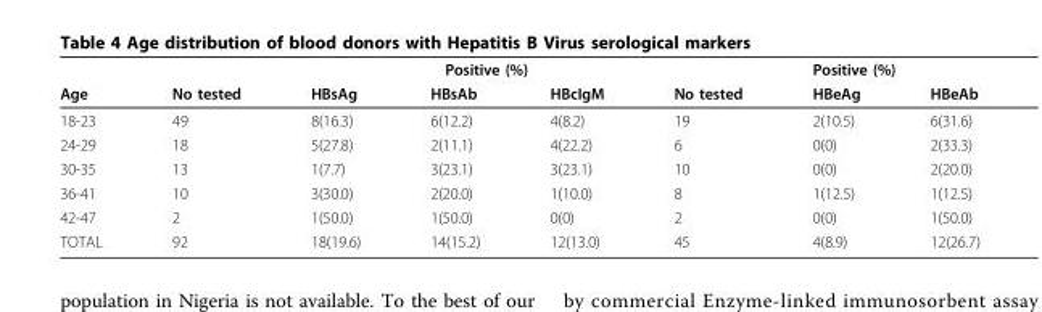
<table><thead><tr><td rowspan="2">Age</td><td rowspan="2">No tested</td><td colspan="3">Positive (%)</td><td rowspan="2">No tested</td><td colspan="2">Positive (%)</td></tr><tr><td>HBsAg</td><td>HBsAb</td><td>HBcIgM</td><td>HBeAg</td><td>HBeAb</td></tr></thead><tbody><tr><td>18-23</td><td>49</td><td>8(16.3)</td><td>6(12.2)</td><td>4(8.2)</td><td>19</td><td>2(10.5)</td><td>6(31.6)</td></tr><tr><td>24-29</td><td>18</td><td>5(27.8)</td><td>2(11.1)</td><td>4(22.2)</td><td>6</td><td>0(0)</td><td>2(33.3)</td></tr><tr><td>30-35</td><td>13</td><td>1(7.7)</td><td>3(23.1)</td><td>3(23.1)</td><td>10</td><td>0(0)</td><td>2(20.0)</td></tr><tr><td>36-41</td><td>10</td><td>3(30.0)</td><td>2(20.0)</td><td>1(10.0)</td><td>8</td><td>1(12.5)</td><td>1(12.5)</td></tr><tr><td>42-47</td><td>2</td><td>1(50.0)</td><td>1(50.0)</td><td>0(0)</td><td>2</td><td>0(0)</td><td>1(50.0)</td></tr><tr><td>TOTAL</td><td>92</td><td>18(19.6)</td><td>14(15.2)</td><td>12(13.0)</td><td>45</td><td>4(8.9)</td><td>12(26.7)</td></tr></tbody></table>